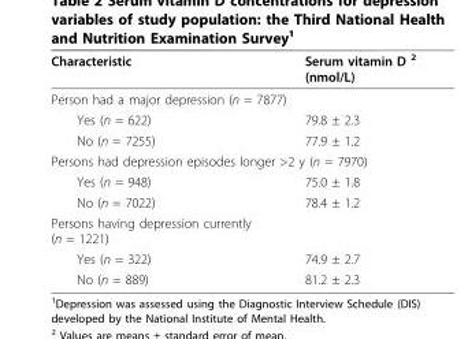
<table><thead><tr><td>Characteristic</td><td>Serum vitamin D <sup>2</sup> (nmol/L)</td></tr></thead><tbody><tr><td colspan="2">Person had a major depression (n = 7877)</td></tr><tr><td>Yes (n = 622)</td><td>79.8 ± 2.3</td></tr><tr><td>No (n = 7255)</td><td>77.9 ± 1.2</td></tr><tr><td colspan="2">Persons had depression episodes longer &gt;2 y (n = 7970)</td></tr><tr><td>Yes (n = 948)</td><td>75.0 ± 1.8</td></tr><tr><td>No (n = 7022)</td><td>78.4 ± 1.2</td></tr><tr><td colspan="2">Persons having depression currently (n = 1221)</td></tr><tr><td>Yes (n = 322)</td><td>74.9 ± 2.7</td></tr><tr><td>No (n = 889)</td><td>81.2 ± 2.3</td></tr></tbody></table>